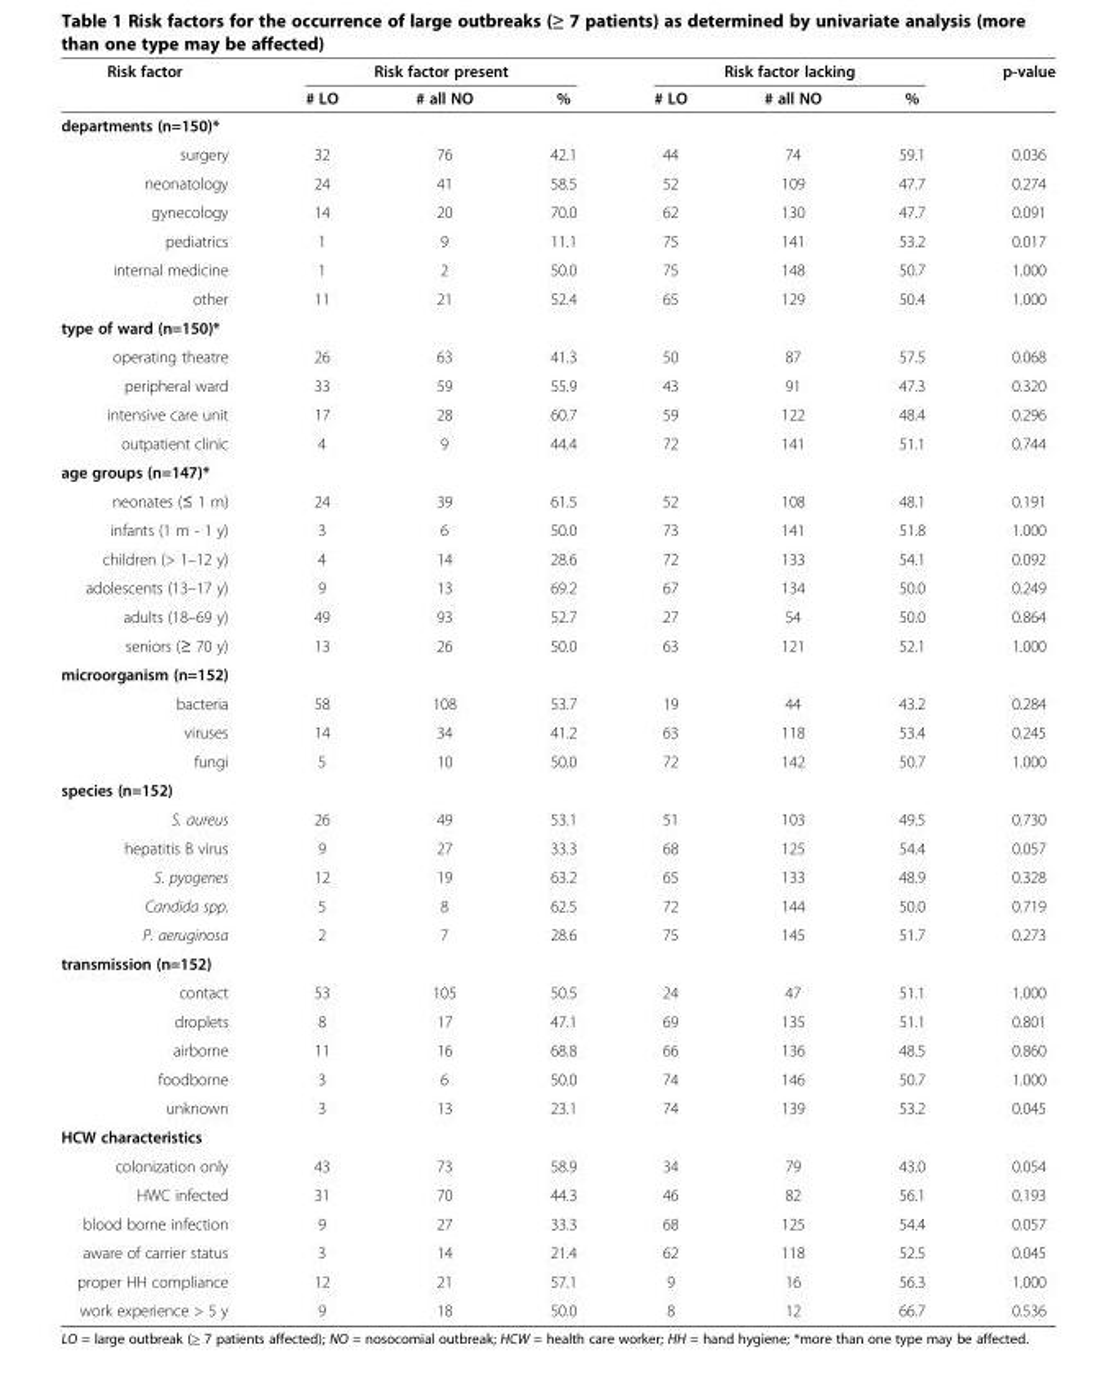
<table><thead><tr><td rowspan="2">Risk factor</td><td colspan="3">Risk factor present</td><td colspan="3">Risk factor lacking</td><td rowspan="2">p-value</td></tr><tr><td># LO</td><td># all NO</td><td>%</td><td># LO</td><td># all NO</td><td>%</td></tr></thead><tbody><tr><td colspan="8">departments (n=150)*</td></tr><tr><td>surgery</td><td>32</td><td>76</td><td>42.1</td><td>44</td><td>74</td><td>59.1</td><td>0.036</td></tr><tr><td>neonatology</td><td>24</td><td>41</td><td>58.5</td><td>52</td><td>109</td><td>47.7</td><td>0.274</td></tr><tr><td>gynecology</td><td>14</td><td>20</td><td>70.0</td><td>62</td><td>130</td><td>47.7</td><td>0.091</td></tr><tr><td>pediatrics</td><td>1</td><td>9</td><td>11.1</td><td>75</td><td>141</td><td>53.2</td><td>0.017</td></tr><tr><td>internal medicine</td><td>1</td><td>2</td><td>50.0</td><td>75</td><td>148</td><td>50.7</td><td>1.000</td></tr><tr><td>other</td><td>11</td><td>21</td><td>52.4</td><td>65</td><td>129</td><td>50.4</td><td>1.000</td></tr><tr><td colspan="8">type of ward (n=150)*</td></tr><tr><td>operating theatre</td><td>26</td><td>63</td><td>41.3</td><td>50</td><td>87</td><td>57.5</td><td>0.068</td></tr><tr><td>peripheral ward</td><td>33</td><td>59</td><td>55.9</td><td>43</td><td>91</td><td>47.3</td><td>0.320</td></tr><tr><td>intensive care unit</td><td>17</td><td>28</td><td>60.7</td><td>59</td><td>122</td><td>48.4</td><td>0.296</td></tr><tr><td>outpatient clinic</td><td>4</td><td>9</td><td>44.4</td><td>72</td><td>141</td><td>51.1</td><td>0.744</td></tr><tr><td colspan="8">age groups (n=147)*</td></tr><tr><td>neonates (≤ 1 m)</td><td>24</td><td>39</td><td>61.5</td><td>52</td><td>108</td><td>48.1</td><td>0.191</td></tr><tr><td>infants (1 m - 1 y)</td><td>3</td><td>6</td><td>50.0</td><td>73</td><td>141</td><td>51.8</td><td>1.000</td></tr><tr><td>children (&gt; 1–12 y)</td><td>4</td><td>14</td><td>28.6</td><td>72</td><td>133</td><td>54.1</td><td>0.092</td></tr><tr><td>adolescents (13–17 y)</td><td>9</td><td>13</td><td>69.2</td><td>67</td><td>134</td><td>50.0</td><td>0.249</td></tr><tr><td>adults (18–69 y)</td><td>49</td><td>93</td><td>52.7</td><td>27</td><td>54</td><td>50.0</td><td>0.864</td></tr><tr><td>seniors (≥ 70 y)</td><td>13</td><td>26</td><td>50.0</td><td>63</td><td>121</td><td>52.1</td><td>1.000</td></tr><tr><td colspan="8">microorganism (n=152)</td></tr><tr><td>bacteria</td><td>58</td><td>108</td><td>53.7</td><td>19</td><td>44</td><td>43.2</td><td>0.284</td></tr><tr><td>viruses</td><td>14</td><td>34</td><td>41.2</td><td>63</td><td>118</td><td>53.4</td><td>0.245</td></tr><tr><td>fungi</td><td>5</td><td>10</td><td>50.0</td><td>72</td><td>142</td><td>50.7</td><td>1.000</td></tr><tr><td colspan="8">species (n=152)</td></tr><tr><td>S. aureus</td><td>26</td><td>49</td><td>53.1</td><td>51</td><td>103</td><td>49.5</td><td>0.730</td></tr><tr><td>hepatitis B virus</td><td>9</td><td>27</td><td>33.3</td><td>68</td><td>125</td><td>54.4</td><td>0.057</td></tr><tr><td>S. pyogenes</td><td>12</td><td>19</td><td>63.2</td><td>65</td><td>133</td><td>48.9</td><td>0.328</td></tr><tr><td>Candida spp.</td><td>5</td><td>8</td><td>62.5</td><td>72</td><td>144</td><td>50.0</td><td>0.719</td></tr><tr><td>P. aeruginosa</td><td>2</td><td>7</td><td>28.6</td><td>75</td><td>145</td><td>51.7</td><td>0.273</td></tr><tr><td colspan="8">transmission (n=152)</td></tr><tr><td>contact</td><td>53</td><td>105</td><td>50.5</td><td>24</td><td>47</td><td>51.1</td><td>1.000</td></tr><tr><td>droplets</td><td>8</td><td>17</td><td>47.1</td><td>69</td><td>135</td><td>51.1</td><td>0.801</td></tr><tr><td>airborne</td><td>11</td><td>16</td><td>68.8</td><td>66</td><td>136</td><td>48.5</td><td>0.860</td></tr><tr><td>foodborne</td><td>3</td><td>6</td><td>50.0</td><td>74</td><td>146</td><td>50.7</td><td>1.000</td></tr><tr><td>unknown</td><td>3</td><td>13</td><td>23.1</td><td>74</td><td>139</td><td>53.2</td><td>0.045</td></tr><tr><td colspan="8">HCW characteristics</td></tr><tr><td>colonization only</td><td>43</td><td>73</td><td>58.9</td><td>34</td><td>79</td><td>43.0</td><td>0.054</td></tr><tr><td>HWC infected</td><td>31</td><td>70</td><td>44.3</td><td>46</td><td>82</td><td>56.1</td><td>0.193</td></tr><tr><td>blood borne infection</td><td>9</td><td>27</td><td>33.3</td><td>68</td><td>125</td><td>54.4</td><td>0.057</td></tr><tr><td>aware of carrier status</td><td>3</td><td>14</td><td>21.4</td><td>62</td><td>118</td><td>52.5</td><td>0.045</td></tr><tr><td>proper HH compliance</td><td>12</td><td>21</td><td>57.1</td><td>9</td><td>16</td><td>56.3</td><td>1.000</td></tr><tr><td>work experience &gt; 5 y</td><td>9</td><td>18</td><td>50.0</td><td>8</td><td>12</td><td>66.7</td><td>0.536</td></tr></tbody></table>